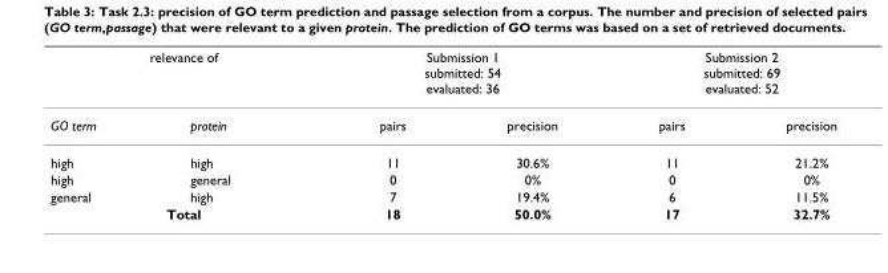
<table><thead><tr><td colspan="2">relevance of</td><td colspan="2">Submission 1 submitted: 54 evaluated: 36</td><td colspan="2">Submission 2 submitted: 69 evaluated: 52</td></tr><tr><td>GO term</td><td>protein</td><td>pairs</td><td>precision</td><td>pairs</td><td>precision</td></tr></thead><tbody><tr><td>high</td><td>high</td><td>11</td><td>30.6%</td><td>11</td><td>21.2%</td></tr><tr><td>high</td><td>general</td><td>0</td><td>0%</td><td>0</td><td>0%</td></tr><tr><td>general</td><td>high</td><td>7</td><td>19.4%</td><td>6</td><td>11.5%</td></tr><tr><td colspan="2">Total</td><td>18</td><td>50.0%</td><td>17</td><td>32.7%</td></tr></tbody></table>